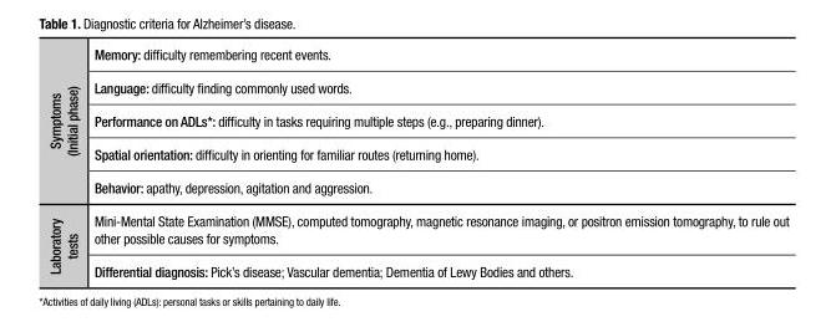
<table><tbody><tr><td rowspan="5">Symptoms (Initial phase)</td><td>Memory: difficulty remembering recent events.</td></tr><tr><td>Language: difficulty finding commonly used words.</td></tr><tr><td>Performance on ADLs*: difficulty in tasks requiring multiple steps (e.g., preparing dinner).</td></tr><tr><td>Spatial orientation: difficulty in orienting for familiar routes (returning home).</td></tr><tr><td>Behavior: apathy, depression, agitation and aggression.</td></tr><tr><td rowspan="2">Laboratory tests</td><td>Mini-Mental State Examination (MMSE), computed tomography, magnetic resonance imaging, or positron emission tomography, to rule out other possible causes for symptoms.</td></tr><tr><td>Differential diagnosis: Pick’s disease; Vascular dementia; Dementia of Lewy Bodies and others.</td></tr></tbody></table>